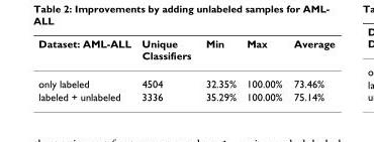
<table><thead><tr><td>Dataset: AML-ALL</td><td>Unique Classifiers</td><td>Min</td><td>Max</td><td>Average</td></tr></thead><tbody><tr><td>only labeled</td><td>4504</td><td>32.35%</td><td>100.00%</td><td>73.46%</td></tr><tr><td>labeled + unlabeled</td><td>3336</td><td>35.29%</td><td>100.00%</td><td>75.14%</td></tr></tbody></table>